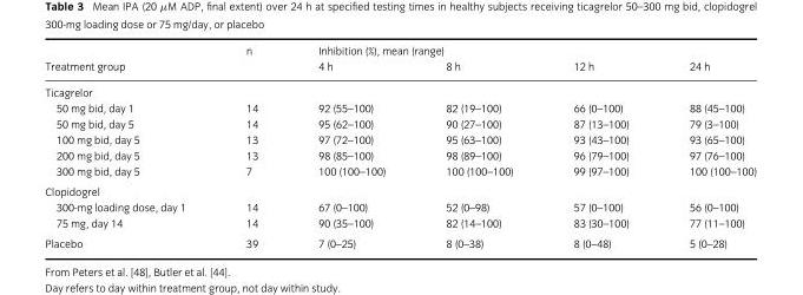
<table><thead><tr><td rowspan="2">Treatment group</td><td rowspan="2">n</td><td colspan="4">Inhibition (%), mean (range)</td></tr><tr><td>4 h</td><td>8 h</td><td>12 h</td><td>24 h</td></tr></thead><tbody><tr><td colspan="6">Ticagrelor</td></tr><tr><td>50 mg bid, day 1</td><td>14</td><td>92 (55–100)</td><td>82 (19–100)</td><td>66 (0–100)</td><td>88 (45–100)</td></tr><tr><td>50 mg bid, day 5</td><td>14</td><td>95 (62–100)</td><td>90 (27–100)</td><td>87 (13–100)</td><td>79 (3–100)</td></tr><tr><td>100 mg bid, day 5</td><td>13</td><td>97 (72–100)</td><td>95 (63–100)</td><td>93 (43–100)</td><td>93 (65–100)</td></tr><tr><td>200 mg bid, day 5</td><td>13</td><td>98 (85–100)</td><td>98 (89–100)</td><td>96 (79–100)</td><td>97 (76–100)</td></tr><tr><td>300 mg bid, day 5</td><td>7</td><td>100 (100–100)</td><td>100 (100–100)</td><td>99 (97–100)</td><td>100 (100–100)</td></tr><tr><td colspan="6">Clopidogrel</td></tr><tr><td>300-mg loading dose, day 1</td><td>14</td><td>67 (0–100)</td><td>52 (0–98)</td><td>57 (0–100)</td><td>56 (0–100)</td></tr><tr><td>75 mg, day 14</td><td>14</td><td>90 (35–100)</td><td>82 (14–100)</td><td>83 (30–100)</td><td>77 (11–100)</td></tr><tr><td>Placebo</td><td>39</td><td>7 (0–25)</td><td>8 (0–38)</td><td>8 (0–48)</td><td>5 (0–28)</td></tr></tbody></table>